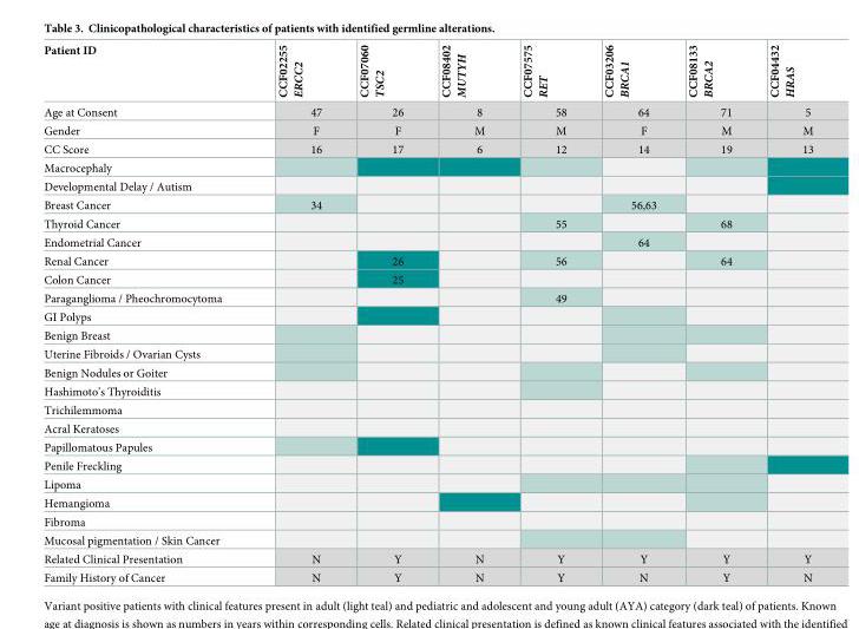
<table><thead><tr><td>Patient ID</td><td>CCF02255 ERCC2</td><td>CCF07060 TSC2</td><td>CCF08402 MUTYH</td><td>CCF07575 RET</td><td>CCF03206 BRCA1</td><td>CCF08133 BRCA2</td><td>CCF04432 HRAS</td></tr></thead><tbody><tr><td>Age at Consent</td><td>47</td><td>26</td><td>8</td><td>58</td><td>64</td><td>71</td><td>5</td></tr><tr><td>Gender</td><td>F</td><td>F</td><td>M</td><td>M</td><td>F</td><td>M</td><td>M</td></tr><tr><td>CC Score</td><td>16</td><td>17</td><td>6</td><td>12</td><td>14</td><td>19</td><td>13</td></tr><tr><td colspan="8">Macrocephaly</td></tr><tr><td colspan="8">Developmental Delay / Autism</td></tr><tr><td>Breast Cancer</td><td>34</td><td></td><td></td><td></td><td>56,63</td><td></td><td></td></tr><tr><td>Thyroid Cancer</td><td></td><td></td><td></td><td>55</td><td></td><td>68</td><td></td></tr><tr><td>Endometrial Cancer</td><td></td><td></td><td></td><td></td><td>64</td><td></td><td></td></tr><tr><td>Renal Cancer</td><td></td><td>26</td><td></td><td>56</td><td></td><td>64</td><td></td></tr><tr><td>Colon Cancer</td><td></td><td>25</td><td></td><td></td><td></td><td></td><td></td></tr><tr><td>Paraganglioma / Pheochromocytoma</td><td></td><td></td><td></td><td>49</td><td></td><td></td><td></td></tr><tr><td colspan="8">GI Polyps</td></tr><tr><td colspan="8">Benign Breast</td></tr><tr><td colspan="8">Uterine Fibroids / Ovarian Cysts</td></tr><tr><td colspan="8">Benign Nodules or Goiter</td></tr><tr><td colspan="8">Hashimoto’s Thyroiditis</td></tr><tr><td colspan="8">Trichilemmoma</td></tr><tr><td colspan="8">Acral Keratoses</td></tr><tr><td colspan="8">Papillomatous Papules</td></tr><tr><td colspan="8">Penile Freckling</td></tr><tr><td colspan="8">Lipoma</td></tr><tr><td colspan="8">Hemangioma</td></tr><tr><td colspan="8">Fibroma</td></tr><tr><td colspan="8">Mucosal pigmentation / Skin Cancer</td></tr><tr><td>Related Clinical Presentation</td><td>N</td><td>Y</td><td>N</td><td>Y</td><td>Y</td><td>Y</td><td>Y</td></tr><tr><td>Family History of Cancer</td><td>N</td><td>Y</td><td>N</td><td>Y</td><td>N</td><td>Y</td><td>N</td></tr></tbody></table>